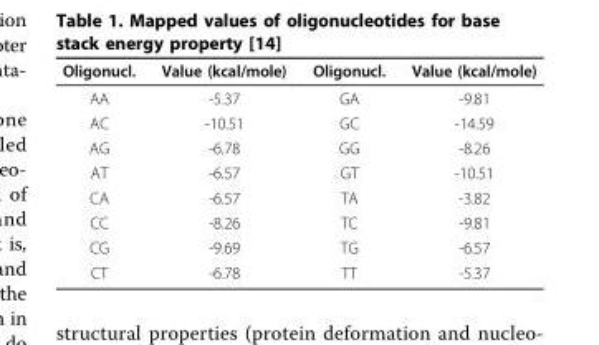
<table><thead><tr><td>Oligonucl.</td><td>Value (kcal/mole)</td><td>Oligonucl.</td><td>Value (kcal/mole)</td></tr></thead><tbody><tr><td>AA</td><td>-5.37</td><td>GA</td><td>-9.81</td></tr><tr><td>AC</td><td>-10.51</td><td>GC</td><td>-14.59</td></tr><tr><td>AG</td><td>-6.78</td><td>GG</td><td>-8.26</td></tr><tr><td>AT</td><td>-6.57</td><td>GT</td><td>-10.51</td></tr><tr><td>CA</td><td>-6.57</td><td>TA</td><td>-3.82</td></tr><tr><td>CC</td><td>-8.26</td><td>TC</td><td>-9.81</td></tr><tr><td>CG</td><td>-9.69</td><td>TG</td><td>-6.57</td></tr><tr><td>CT</td><td>-6.78</td><td>TT</td><td>-5.37</td></tr></tbody></table>